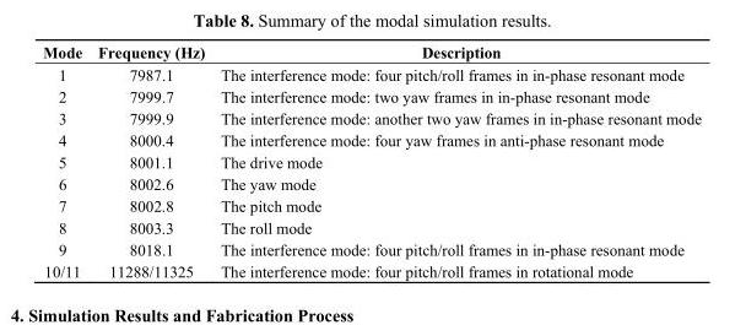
<table><thead><tr><td>Mode</td><td>Frequency (Hz)</td><td>Description</td></tr></thead><tbody><tr><td>1</td><td>7987.1</td><td>The interference mode: four pitch/roll frames in in-phase resonant mode</td></tr><tr><td>2</td><td>7999.7</td><td>The interference mode: two yaw frames in in-phase resonant mode</td></tr><tr><td>3</td><td>7999.9</td><td>The interference mode: another two yaw frames in in-phase resonant mode</td></tr><tr><td>4</td><td>8000.4</td><td>The interference mode: four yaw frames in anti-phase resonant mode</td></tr><tr><td>5</td><td>8001.1</td><td>The drive mode</td></tr><tr><td>6</td><td>8002.6</td><td>The yaw mode</td></tr><tr><td>7</td><td>8002.8</td><td>The pitch mode</td></tr><tr><td>8</td><td>8003.3</td><td>The roll mode</td></tr><tr><td>9</td><td>8018.1</td><td>The interference mode: four pitch/roll frames in in-phase resonant mode</td></tr><tr><td>10/11</td><td>11288/11325</td><td>The interference mode: four pitch/roll frames in rotational mode</td></tr></tbody></table>